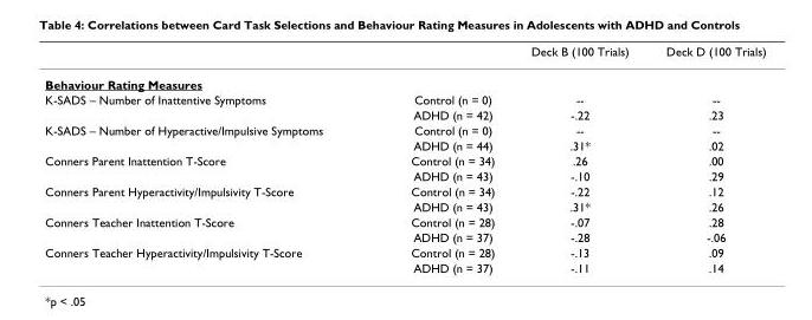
<table><thead><tr><td></td><td></td><td>Deck B (100 Trials)</td><td>Deck D (100 Trials)</td></tr></thead><tbody><tr><td colspan="4">Behaviour Rating Measures</td></tr><tr><td rowspan="2">K-SADS – Number of Inattentive Symptoms</td><td>Control (n = 0)</td><td>--</td><td>--</td></tr><tr><td>ADHD (n = 42)</td><td>-.22</td><td>.23</td></tr><tr><td rowspan="2">K-SADS – Number of Hyperactive/Impulsive Symptoms</td><td>Control (n = 0)</td><td>--</td><td>--</td></tr><tr><td>ADHD (n = 44)</td><td>.31*</td><td>.02</td></tr><tr><td rowspan="2">Conners Parent Inattention T-Score</td><td>Control (n = 34)</td><td>.26</td><td>.00</td></tr><tr><td>ADHD (n = 43)</td><td>-.10</td><td>.29</td></tr><tr><td rowspan="2">Conners Parent Hyperactivity/Impulsivity T-Score</td><td>Control (n = 34)</td><td>-.22</td><td>.12</td></tr><tr><td>ADHD (n = 43)</td><td>.31*</td><td>.26</td></tr><tr><td rowspan="2">Conners Teacher Inattention T-Score</td><td>Control (n = 28)</td><td>-.07</td><td>.28</td></tr><tr><td>ADHD (n = 37)</td><td>-.28</td><td>-.06</td></tr><tr><td rowspan="2">Conners Teacher Hyperactivity/Impulsivity T-Score</td><td>Control (n = 28)</td><td>-.13</td><td>.09</td></tr><tr><td>ADHD (n = 37)</td><td>-.11</td><td>.14</td></tr></tbody></table>